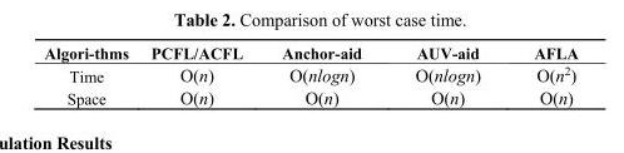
<table><thead><tr><td>Algori-thms</td><td>PCFL/ACFL</td><td>Anchor-aid</td><td>AUV-aid</td><td>AFLA</td></tr></thead><tbody><tr><td>Time</td><td>O(n)</td><td>O(nlogn)</td><td>O(nlogn)</td><td>O(n<sup>2</sup>)</td></tr><tr><td>Space</td><td>O(n)</td><td>O(n)</td><td>O(n)</td><td>O(n)</td></tr></tbody></table>